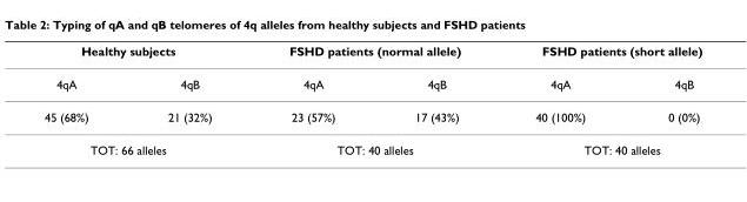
<table><thead><tr><td colspan="2">Healthy subjects</td><td colspan="2">FSHD patients (normal allele)</td><td colspan="2">FSHD patients (short allele)</td></tr><tr><td>4qA</td><td>4qB</td><td>4qA</td><td>4qB</td><td>4qA</td><td>4qB</td></tr></thead><tbody><tr><td>45 (68%)</td><td>21 (32%)</td><td>23 (57%)</td><td>17 (43%)</td><td>40 (100%)</td><td>0 (0%)</td></tr><tr><td colspan="2">TOT: 66 alleles</td><td colspan="2">TOT: 40 alleles</td><td colspan="2">TOT: 40 alleles</td></tr></tbody></table>